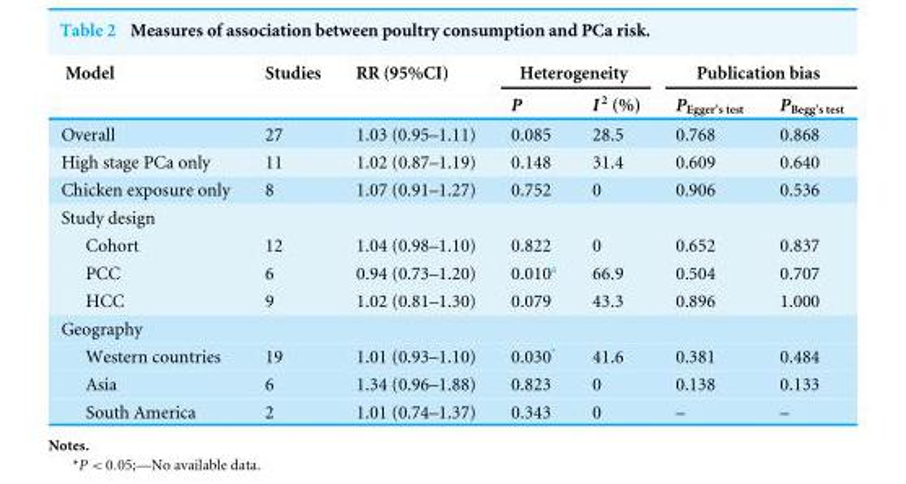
<table><thead><tr><td rowspan="2">Model</td><td rowspan="2">Studies</td><td rowspan="2">RR (95%CI)</td><td colspan="2">Heterogeneity</td><td colspan="2">Publication bias</td></tr><tr><td>P</td><td>I <sup>2</sup> (%)</td><td>P<sub>Egger’s test</sub></td><td>P<sub>Begg’s test</sub></td></tr></thead><tbody><tr><td>Overall</td><td>27</td><td>1.03 (0.95–1.11)</td><td>0.085</td><td>28.5</td><td>0.768</td><td>0.868</td></tr><tr><td>High stage PCa only</td><td>11</td><td>1.02 (0.87–1.19)</td><td>0.148</td><td>31.4</td><td>0.609</td><td>0.640</td></tr><tr><td>Chicken exposure only</td><td>8</td><td>1.07 (0.91–1.27)</td><td>0.752</td><td>0</td><td>0.906</td><td>0.536</td></tr><tr><td colspan="7">Study design</td></tr><tr><td>Cohort</td><td>12</td><td>1.04 (0.98–1.10)</td><td>0.822</td><td>0</td><td>0.652</td><td>0.837</td></tr><tr><td>PCC</td><td>6</td><td>0.94 (0.73–1.20)</td><td>0.010<sup>a</sup></td><td>66.9</td><td>0.504</td><td>0.707</td></tr><tr><td>HCC</td><td>9</td><td>1.02 (0.81–1.30)</td><td>0.079</td><td>43.3</td><td>0.896</td><td>1.000</td></tr><tr><td colspan="7">Geography</td></tr><tr><td>Western countries</td><td>19</td><td>1.01 (0.93–1.10)</td><td>0.030*</td><td>41.6</td><td>0.381</td><td>0.484</td></tr><tr><td>Asia</td><td>6</td><td>1.34 (0.96–1.88)</td><td>0.823</td><td>0</td><td>0.138</td><td>0.133</td></tr><tr><td>South America</td><td>2</td><td>1.01 (0.74–1.37)</td><td>0.343</td><td>0</td><td>–</td><td>–</td></tr></tbody></table>